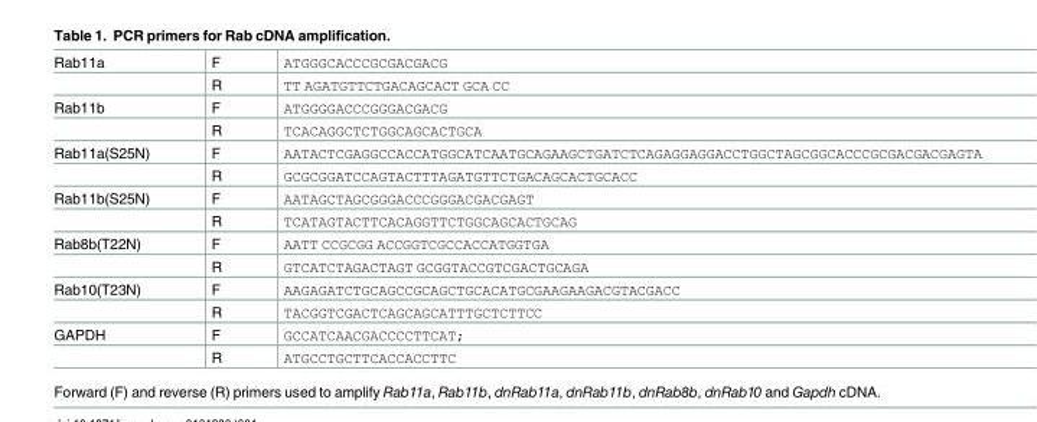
<table><tbody><tr><td rowspan="2">Rab11a</td><td>F</td><td>ATGGGCACCCGCGACGACG</td></tr><tr><td>R</td><td>TT AGATGTTCTGACAGCACT GCA CC</td></tr><tr><td rowspan="2">Rab11b</td><td>F</td><td>ATGGGGACCCGGGACGACG</td></tr><tr><td>R</td><td>TCACAGGCTCTGGCAGCACTGCA</td></tr><tr><td rowspan="2">Rab11a(S25N)</td><td>F</td><td>AATACTCGAGGCCACCATGGCATCAATGCAGAAGCTGATCTCAGAGGAGGACCTGGCTAGCGGCACCCGCGACGACGAGTA</td></tr><tr><td>R</td><td>GCGCGGATCCAGTACTTTAGATGTTCTGACAGCACTGCACC</td></tr><tr><td rowspan="2">Rab11b(S25N)</td><td>F</td><td>AATAGCTAGCGGGACCCGGGACGACGAGT</td></tr><tr><td>R</td><td>TCATAGTACTTCACAGGTTCTGGCAGCACTGCAG</td></tr><tr><td rowspan="2">Rab8b(T22N)</td><td>F</td><td>AATT CCGCGG ACCGGTCGCCACCATGGTGA</td></tr><tr><td>R</td><td>GTCATCTAGACTAGT GCGGTACCGTCGACTGCAGA</td></tr><tr><td rowspan="2">Rab10(T23N)</td><td>F</td><td>AAGAGATCTGCAGCCGCAGCTGCACATGCGAAGAAGACGTACGACC</td></tr><tr><td>R</td><td>TACGGTCGACTCAGCAGCATTTGCTCTTCC</td></tr><tr><td rowspan="2">GAPDH</td><td>F</td><td>GCCATCAACGACCCCTTCAT;</td></tr><tr><td>R</td><td>ATGCCTGCTTCACCACCTTC</td></tr></tbody></table>